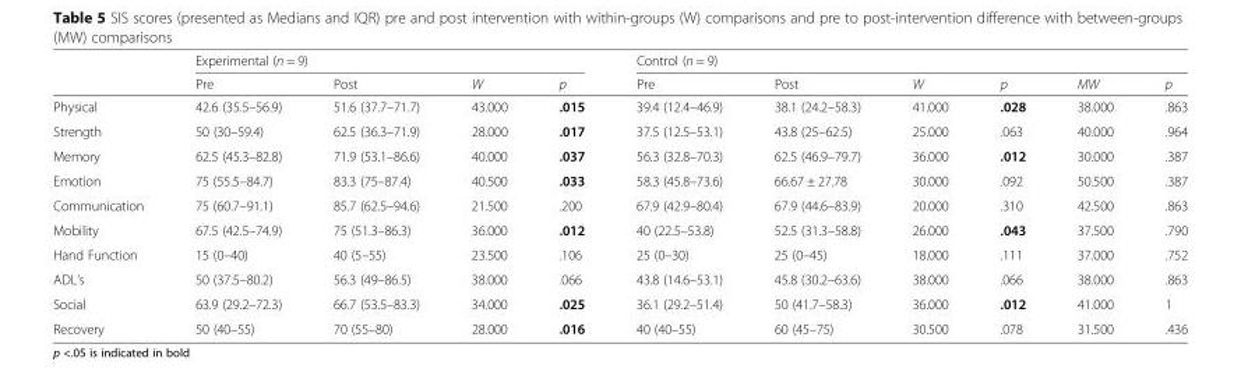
<table><thead><tr><td rowspan="2"></td><td colspan="4">Experimental (n = 9)</td><td colspan="6">Control (n = 9)</td></tr><tr><td>Pre</td><td>Post</td><td>W</td><td>p</td><td>Pre</td><td>Post</td><td>W</td><td>p</td><td>MW</td><td>p</td></tr></thead><tbody><tr><td>Physical</td><td>42.6 (35.5–56.9)</td><td>51.6 (37.7–71.7)</td><td>43.000</td><td>.015</td><td>39.4 (12.4–46.9)</td><td>38.1 (24.2–58.3)</td><td>41.000</td><td>.028</td><td>38.000</td><td>.863</td></tr><tr><td>Strength</td><td>50 (30–59.4)</td><td>62.5 (36.3–71.9)</td><td>28.000</td><td>.017</td><td>37.5 (12.5–53.1)</td><td>43.8 (25–62.5)</td><td>25.000</td><td>.063</td><td>40.000</td><td>.964</td></tr><tr><td>Memory</td><td>62.5 (45.3–82.8)</td><td>71.9 (53.1–86.6)</td><td>40.000</td><td>.037</td><td>56.3 (32.8–70.3)</td><td>62.5 (46.9–79.7)</td><td>36.000</td><td>.012</td><td>30.000</td><td>.387</td></tr><tr><td>Emotion</td><td>75 (55.5–84.7)</td><td>83.3 (75–87.4)</td><td>40.500</td><td>.033</td><td>58.3 (45.8–73.6)</td><td>66.67 ± 27.78</td><td>30.000</td><td>.092</td><td>50.500</td><td>.387</td></tr><tr><td>Communication</td><td>75 (60.7–91.1)</td><td>85.7 (62.5–94.6)</td><td>21.500</td><td>.200</td><td>67.9 (42.9–80.4)</td><td>67.9 (44.6–83.9)</td><td>20.000</td><td>.310</td><td>42.500</td><td>.863</td></tr><tr><td>Mobility</td><td>67.5 (42.5–74.9)</td><td>75 (51.3–86.3)</td><td>36.000</td><td>.012</td><td>40 (22.5–53.8)</td><td>52.5 (31.3–58.8)</td><td>26.000</td><td>.043</td><td>37.500</td><td>.790</td></tr><tr><td>Hand Function</td><td>15 (0–40)</td><td>40 (5–55)</td><td>23.500</td><td>.106</td><td>25 (0–30)</td><td>25 (0–45)</td><td>18.000</td><td>.111</td><td>37.000</td><td>.752</td></tr><tr><td>ADL’s</td><td>50 (37.5–80.2)</td><td>56.3 (49–86.5)</td><td>38.000</td><td>.066</td><td>43.8 (14.6–53.1)</td><td>45.8 (30.2–63.6)</td><td>38.000</td><td>.066</td><td>38.000</td><td>.863</td></tr><tr><td>Social</td><td>63.9 (29.2–72.3)</td><td>66.7 (53.5–83.3)</td><td>34.000</td><td>.025</td><td>36.1 (29.2–51.4)</td><td>50 (41.7–58.3)</td><td>36.000</td><td>.012</td><td>41.000</td><td>1</td></tr><tr><td>Recovery</td><td>50 (40–55)</td><td>70 (55–80)</td><td>28.000</td><td>.016</td><td>40 (40–55)</td><td>60 (45–75)</td><td>30.500</td><td>.078</td><td>31.500</td><td>.436</td></tr></tbody></table>